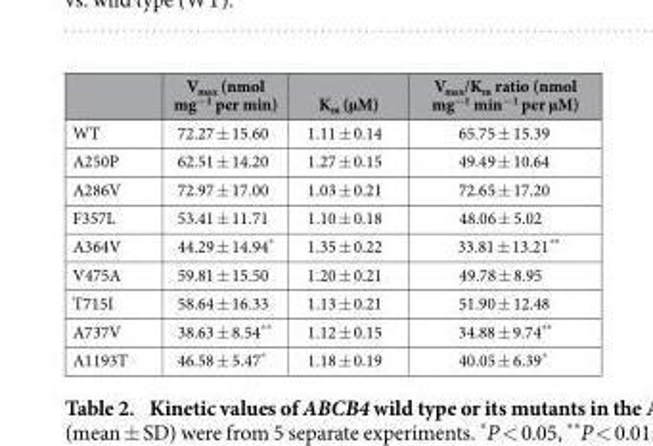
<table><thead><tr><td></td><td>V<sub>max</sub> (nmol mg<sup>−1</sup> per min)</td><td>K<sub>m</sub> (μM)</td><td>V<sub>max</sub>/K<sub>m</sub> ratio (nmol mg<sup>−1</sup> min<sup>−1</sup> per μM)</td></tr></thead><tbody><tr><td>WT</td><td>72.27 ± 15.60</td><td>1.11 ± 0.14</td><td>65.75 ± 15.39</td></tr><tr><td>A250P</td><td>62.51 ± 14.20</td><td>1.27 ± 0.15</td><td>49.49 ± 10.64</td></tr><tr><td>A286V</td><td>72.97 ± 17.00</td><td>1.03 ± 0.21</td><td>72.65 ± 17.20</td></tr><tr><td>F357L</td><td>53.41 ± 11.71</td><td>1.10 ± 0.18</td><td>48.06 ± 5.02</td></tr><tr><td>A364V</td><td>44.29 ± 14.94*</td><td>1.35 ± 0.22</td><td>33.81 ± 13.21**</td></tr><tr><td>V475A</td><td>59.81 ± 15.50</td><td>1.20 ± 0.21</td><td>49.78 ± 8.95</td></tr><tr><td>T715I</td><td>58.64 ± 16.33</td><td>1.13 ± 0.21</td><td>51.90 ± 12.48</td></tr><tr><td>A737V</td><td>38.63 ± 8.54**</td><td>1.12 ± 0.15</td><td>34.88 ± 9.74**</td></tr><tr><td>A1193T</td><td>46.58 ± 5.47*</td><td>1.18 ± 0.19</td><td>40.05 ± 6.39*</td></tr></tbody></table>